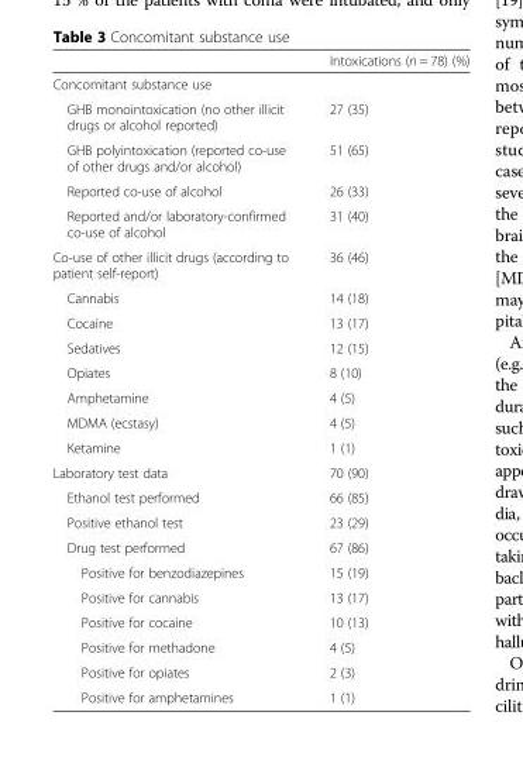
<table><thead><tr><td></td><td>Intoxications (n = 78) (%)</td></tr></thead><tbody><tr><td colspan="2">Concomitant substance use</td></tr><tr><td>GHB monointoxication (no other illicit drugs or alcohol reported)</td><td>27 (35)</td></tr><tr><td>GHB polyintoxication (reported co-use of other drugs and/or alcohol)</td><td>51 (65)</td></tr><tr><td>Reported co-use of alcohol</td><td>26 (33)</td></tr><tr><td>Reported and/or laboratory-confirmed co-use of alcohol</td><td>31 (40)</td></tr><tr><td>Co-use of other illicit drugs (according to patient self-report)</td><td>36 (46)</td></tr><tr><td>Cannabis</td><td>14 (18)</td></tr><tr><td>Cocaine</td><td>13 (17)</td></tr><tr><td>Sedatives</td><td>12 (15)</td></tr><tr><td>Opiates</td><td>8 (10)</td></tr><tr><td>Amphetamine</td><td>4 (5)</td></tr><tr><td>MDMA (ecstasy)</td><td>4 (5)</td></tr><tr><td>Ketamine</td><td>1 (1)</td></tr><tr><td>Laboratory test data</td><td>70 (90)</td></tr><tr><td>Ethanol test performed</td><td>66 (85)</td></tr><tr><td>Positive ethanol test</td><td>23 (29)</td></tr><tr><td>Drug test performed</td><td>67 (86)</td></tr><tr><td>Positive for benzodiazepines</td><td>15 (19)</td></tr><tr><td>Positive for cannabis</td><td>13 (17)</td></tr><tr><td>Positive for cocaine</td><td>10 (13)</td></tr><tr><td>Positive for methadone</td><td>4 (5)</td></tr><tr><td>Positive for opiates</td><td>2 (3)</td></tr><tr><td>Positive for amphetamines</td><td>1 (1)</td></tr></tbody></table>